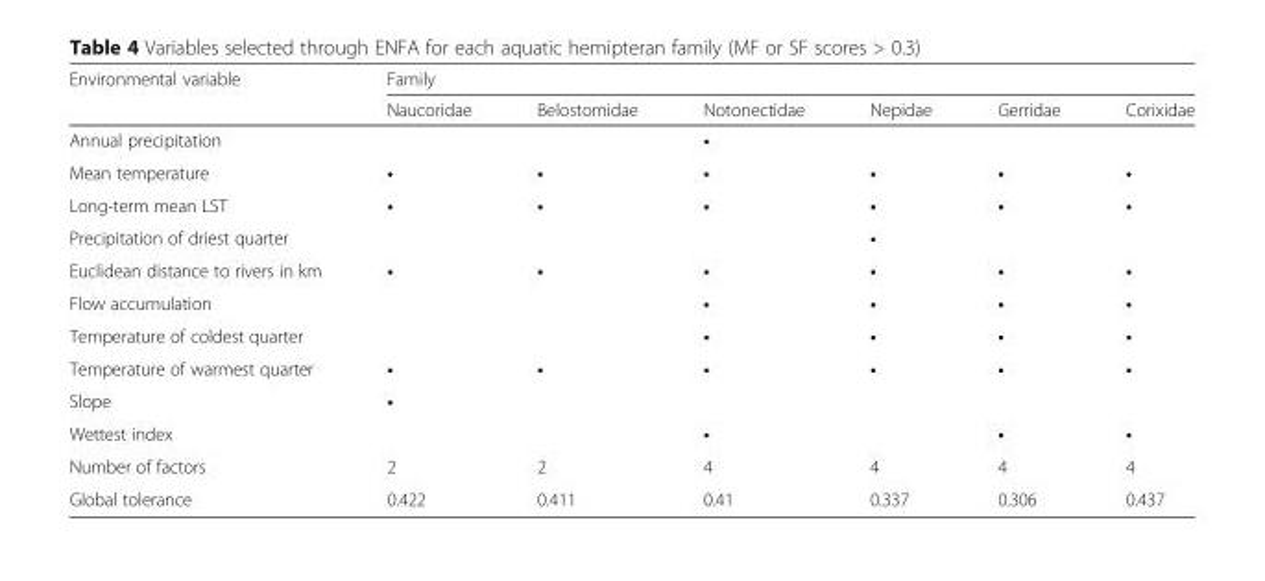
<table><thead><tr><td rowspan="2">Environmental variable</td><td colspan="6">Family</td></tr><tr><td>Naucoridae</td><td>Belostomidae</td><td>Notonectidae</td><td>Nepidae</td><td>Gerridae</td><td>Corixidae</td></tr></thead><tbody><tr><td>Annual precipitation</td><td></td><td></td><td>•</td><td></td><td></td><td></td></tr><tr><td>Mean temperature</td><td>•</td><td>•</td><td>•</td><td>•</td><td>•</td><td>•</td></tr><tr><td>Long-term mean LST</td><td>•</td><td>•</td><td>•</td><td>•</td><td>•</td><td>•</td></tr><tr><td>Precipitation of driest quarter</td><td></td><td></td><td></td><td>•</td><td></td><td></td></tr><tr><td>Euclidean distance to rivers in km</td><td>•</td><td>•</td><td>•</td><td>•</td><td>•</td><td>•</td></tr><tr><td>Flow accumulation</td><td></td><td></td><td>•</td><td>•</td><td>•</td><td>•</td></tr><tr><td>Temperature of coldest quarter</td><td></td><td></td><td>•</td><td>•</td><td>•</td><td>•</td></tr><tr><td>Temperature of warmest quarter</td><td>•</td><td>•</td><td>•</td><td>•</td><td>•</td><td>•</td></tr><tr><td>Slope</td><td>•</td><td></td><td></td><td></td><td></td><td></td></tr><tr><td>Wettest index</td><td></td><td></td><td>•</td><td></td><td>•</td><td>•</td></tr><tr><td>Number of factors</td><td>2</td><td>2</td><td>4</td><td>4</td><td>4</td><td>4</td></tr><tr><td>Global tolerance</td><td>0.422</td><td>0.411</td><td>0.41</td><td>0.337</td><td>0.306</td><td>0.437</td></tr></tbody></table>